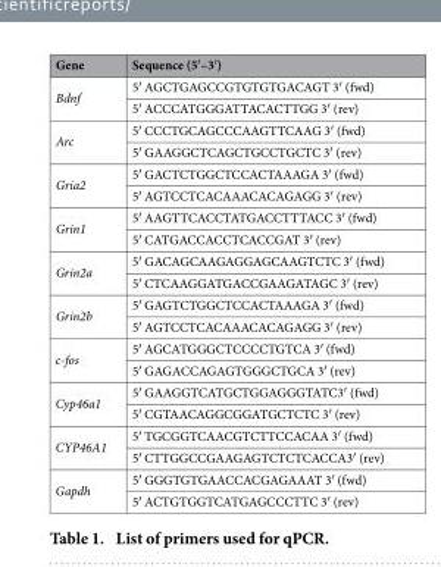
<table><thead><tr><td>Gene</td><td>Sequence (5′–3′)</td></tr></thead><tbody><tr><td rowspan="2">Bdnf</td><td>5′ AGCTGAGCCGTGTGTGACAGT 3′ (fwd)</td></tr><tr><td>5′ ACCCATGGGATTACACTTGG 3′ (rev)</td></tr><tr><td rowspan="2">Arc</td><td>5′ CCCTGCAGCCCAAGTTCAAG 3′ (fwd)</td></tr><tr><td>5′ GAAGGCTCAGCTGCCTGCTC 3′ (rev)</td></tr><tr><td rowspan="2">Gria2</td><td>5′ GACTCTGGCTCCACTAAAGA 3′ (fwd)</td></tr><tr><td>5′ AGTCCTCACAAACACAGAGG 3′ (rev)</td></tr><tr><td rowspan="2">Grin1</td><td>5′ AAGTTCACCTATGACCTTTACC 3′ (fwd)</td></tr><tr><td>5′ CATGACCACCTCACCGAT 3′ (rev)</td></tr><tr><td rowspan="2">Grin2a</td><td>5′ GACAGCAAGAGGAGCAAGTCTC 3′ (fwd)</td></tr><tr><td>5′ CTCAAGGATGACCGAAGATAGC 3′ (rev)</td></tr><tr><td rowspan="2">Grin2b</td><td>5′ GAGTCTGGCTCCACTAAAGA 3′ (fwd)</td></tr><tr><td>5′ AGTCCTCACAAACACAGAGG 3′ (rev)</td></tr><tr><td rowspan="2">c-fos</td><td>5′ AGCATGGGCTCCCCTGTCA 3′ (fwd)</td></tr><tr><td>5′ GAGACCAGAGTGGGCTGCA 3′ (rev)</td></tr><tr><td rowspan="2">Cyp46a1</td><td>5′ GAAGGTCATGCTGGAGGGTATC3′ (fwd)</td></tr><tr><td>5′ CGTAACAGGCGGATGCTCTC 3′ (rev)</td></tr><tr><td rowspan="2">CYP46A1</td><td>5′ TGCGGTCAACGTCTTCCACAA 3′ (fwd)</td></tr><tr><td>5′ CTTGGCCGAAGAGTCTCTCACCA3′ (rev)</td></tr><tr><td rowspan="2">Gapdh</td><td>5′ GGGTGTGAACCACGAGAAAT 3′ (fwd)</td></tr><tr><td>5′ ACTGTGGTCATGAGCCCTTC 3′ (rev)</td></tr></tbody></table>